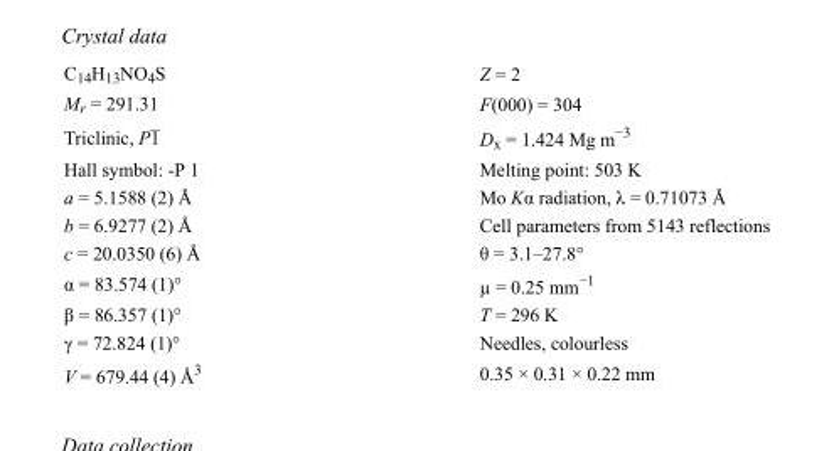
<table><tbody><tr><td>C<sub>14</sub>H<sub>13</sub>NO<sub>4</sub>S</td><td>Z = 2</td></tr><tr><td>M<sub>r</sub> = 291.31</td><td>F(000) = 304</td></tr><tr><td>Triclinic, P1</td><td>D<sub>x</sub> = 1.424 Mg m<sup>−3</sup></td></tr><tr><td>Hall symbol: -P 1</td><td>Melting point: 503 K</td></tr><tr><td>a = 5.1588 (2) Å</td><td>Mo Kα radiation, λ = 0.71073 Å</td></tr><tr><td>b = 6.9277 (2) Å</td><td>Cell parameters from 5143 reflections</td></tr><tr><td>c = 20.0350 (6) Å</td><td>θ = 3.1–27.8°</td></tr><tr><td>α = 83.574 (1)°</td><td>µ = 0.25 mm<sup>−1</sup></td></tr><tr><td>β = 86.357 (1)°</td><td>T = 296 K</td></tr><tr><td>γ = 72.824 (1)°</td><td>Needles, colourless</td></tr><tr><td>V = 679.44 (4) Å<sup>3</sup></td><td>0.35 × 0.31 × 0.22 mm</td></tr></tbody></table>